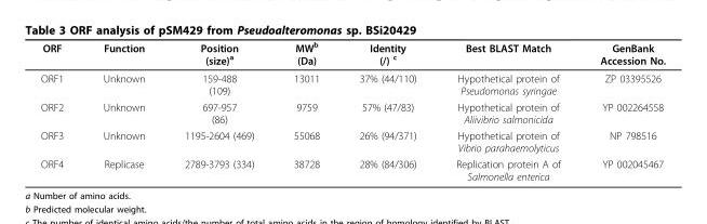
<table><thead><tr><td>ORF</td><td>Function</td><td>Position (size)<sup>a</sup></td><td>MW<sup>b</sup> (Da)</td><td>Identity (/) <sup>c</sup></td><td>Best BLAST Match</td><td>GenBank Accession No.</td></tr></thead><tbody><tr><td>ORF1</td><td>Unknown</td><td>159-488 (109)</td><td>13011</td><td>37% (44/110)</td><td>Hypothetical protein of Pseudomonas syringae</td><td>ZP 03395526</td></tr><tr><td>ORF2</td><td>Unknown</td><td>697-957 (86)</td><td>9759</td><td>57% (47/83)</td><td>Hypothetical protein of Aliivibrio salmonicida</td><td>YP 002264558</td></tr><tr><td>ORF3</td><td>Unknown</td><td>1195-2604 (469)</td><td>55068</td><td>26% (94/371)</td><td>Hypothetical protein of Vibrio parahaemolyticus</td><td>NP 798516</td></tr><tr><td>ORF4</td><td>Replicase</td><td>2789-3793 (334)</td><td>38728</td><td>28% (84/306)</td><td>Replication protein A of Salmonella enterica</td><td>YP 002045467</td></tr></tbody></table>